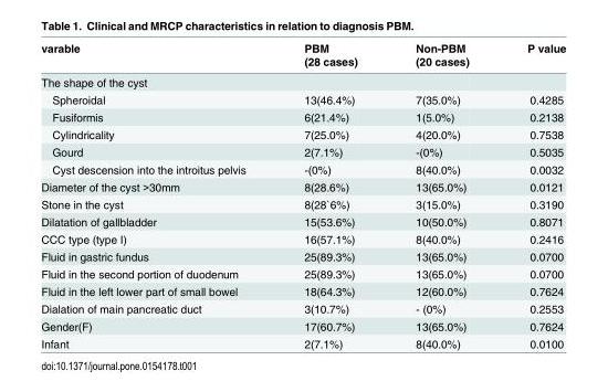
<table><thead><tr><td rowspan="2">varable</td><td rowspan="2">PBM (28 cases)</td><td rowspan="2">Non-PBM (20 cases)</td><td rowspan="2">P value</td></tr><tr></tr></thead><tbody><tr><td colspan="4">The shape of the cyst</td></tr><tr><td>Spheroidal</td><td>13(46.4%)</td><td>7(35.0%)</td><td>0.4285</td></tr><tr><td>Fusiformis</td><td>6(21.4%)</td><td>1(5.0%)</td><td>0.2138</td></tr><tr><td>Cylindricality</td><td>7(25.0%)</td><td>4(20.0%)</td><td>0.7538</td></tr><tr><td>Gourd</td><td>2(7.1%)</td><td>-(0%)</td><td>0.5035</td></tr><tr><td>Cyst descension into the introitus pelvis</td><td>-(0%)</td><td>8(40.0%)</td><td>0.0032</td></tr><tr><td>Diameter of the cyst &gt;30mm</td><td>8(28.6%)</td><td>13(65.0%)</td><td>0.0121</td></tr><tr><td>Stone in the cyst</td><td>8(28`6%)</td><td>3(15.0%)</td><td>0.3190</td></tr><tr><td>Dilatation of gallbladder</td><td>15(53.6%)</td><td>10(50.0%)</td><td>0.8071</td></tr><tr><td>CCC type (type I)</td><td>16(57.1%)</td><td>8(40.0%)</td><td>0.2416</td></tr><tr><td>Fluid in gastric fundus</td><td>25(89.3%)</td><td>13(65.0%)</td><td>0.0700</td></tr><tr><td>Fluid in the second portion of duodenum</td><td>25(89.3%)</td><td>13(65.0%)</td><td>0.0700</td></tr><tr><td>Fluid in the left lower part of small bowel</td><td>18(64.3%)</td><td>12(60.0%)</td><td>0.7624</td></tr><tr><td>Dialation of main pancreatic duct</td><td>3(10.7%)</td><td>- (0%)</td><td>0.2553</td></tr><tr><td>Gender(F)</td><td>17(60.7%)</td><td>13(65.0%)</td><td>0.7624</td></tr><tr><td>Infant</td><td>2(7.1%)</td><td>8(40.0%)</td><td>0.0100</td></tr></tbody></table>